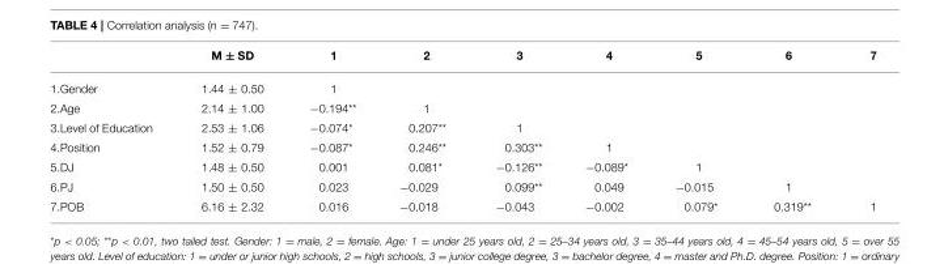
<table><thead><tr><td></td><td>M ± SD</td><td>1</td><td>2</td><td>3</td><td>4</td><td>5</td><td>6</td><td>7</td></tr></thead><tbody><tr><td>1.Gender</td><td>1.44 ± 0.50</td><td>1</td><td></td><td></td><td></td><td></td><td></td><td></td></tr><tr><td>2.Age</td><td>2.14 ± 1.00</td><td>−0.194**</td><td>1</td><td></td><td></td><td></td><td></td><td></td></tr><tr><td>3.Level of Education</td><td>2.53 ± 1.06</td><td>−0.074*</td><td>0.207**</td><td>1</td><td></td><td></td><td></td><td></td></tr><tr><td>4.Position</td><td>1.52 ± 0.79</td><td>−0.087*</td><td>0.246**</td><td>0.303**</td><td>1</td><td></td><td></td><td></td></tr><tr><td>5.DJ</td><td>1.48 ± 0.50</td><td>0.001</td><td>0.081*</td><td>−0.126**</td><td>−0.089*</td><td>1</td><td></td><td></td></tr><tr><td>6.PJ</td><td>1.50 ± 0.50</td><td>0.023</td><td>−0.029</td><td>0.099**</td><td>0.049</td><td>−0.015</td><td>1</td><td></td></tr><tr><td>7.POB</td><td>6.16 ± 2.32</td><td>0.016</td><td>−0.018</td><td>−0.043</td><td>−0.002</td><td>0.079*</td><td>0.319**</td><td>1</td></tr></tbody></table>